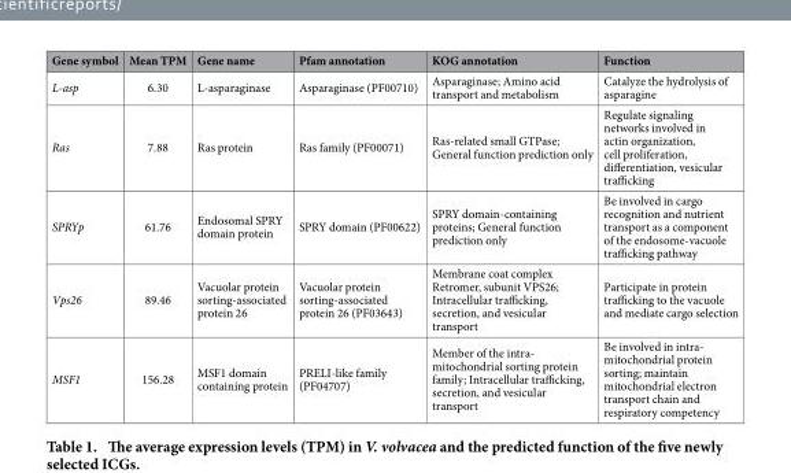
<table><thead><tr><td>Gene symbol</td><td>Mean TPM</td><td>Gene name</td><td>Pfam annotation</td><td>KOG annotation</td><td>Function</td></tr></thead><tbody><tr><td>L-asp</td><td>6.30</td><td>L-asparaginase</td><td>Asparaginase (PF00710)</td><td>Asparaginase; Amino acid transport and metabolism</td><td>Catalyze the hydrolysis of asparagine</td></tr><tr><td>Ras</td><td>7.88</td><td>Ras protein</td><td>Ras family (PF00071)</td><td>Ras-related small GTPase; General function prediction only</td><td>Regulate signaling networks involved in actin organization, cell proliferation, differentiation, vesicular trafficking</td></tr><tr><td>SPRYp</td><td>61.76</td><td>Endosomal SPRY domain protein</td><td>SPRY domain (PF00622)</td><td>SPRY domain-containing proteins; General function prediction only</td><td>Be involved in cargo recognition and nutrient transport as a component of the endosome-vacuole trafficking pathway</td></tr><tr><td>Vps26</td><td>89.46</td><td>Vacuolar protein sorting-associated protein 26</td><td>Vacuolar protein sorting-associated protein 26 (PF03643)</td><td>Membrane coat complex Retromer, subunit VPS26; Intracellular trafficking, secretion, and vesicular transport</td><td>Participate in protein trafficking to the vacuole and mediate cargo selection</td></tr><tr><td>MSF1</td><td>156.28</td><td>MSF1 domain containing protein</td><td>PRELI-like family (PF04707)</td><td>Member of the intra- mitochondrial sorting protein family; Intracellular trafficking, secretion, and vesicular transport</td><td>Be involved in intra- mitochondrial protein sorting; maintain mitochondrial electron transport chain and respiratory competency</td></tr></tbody></table>